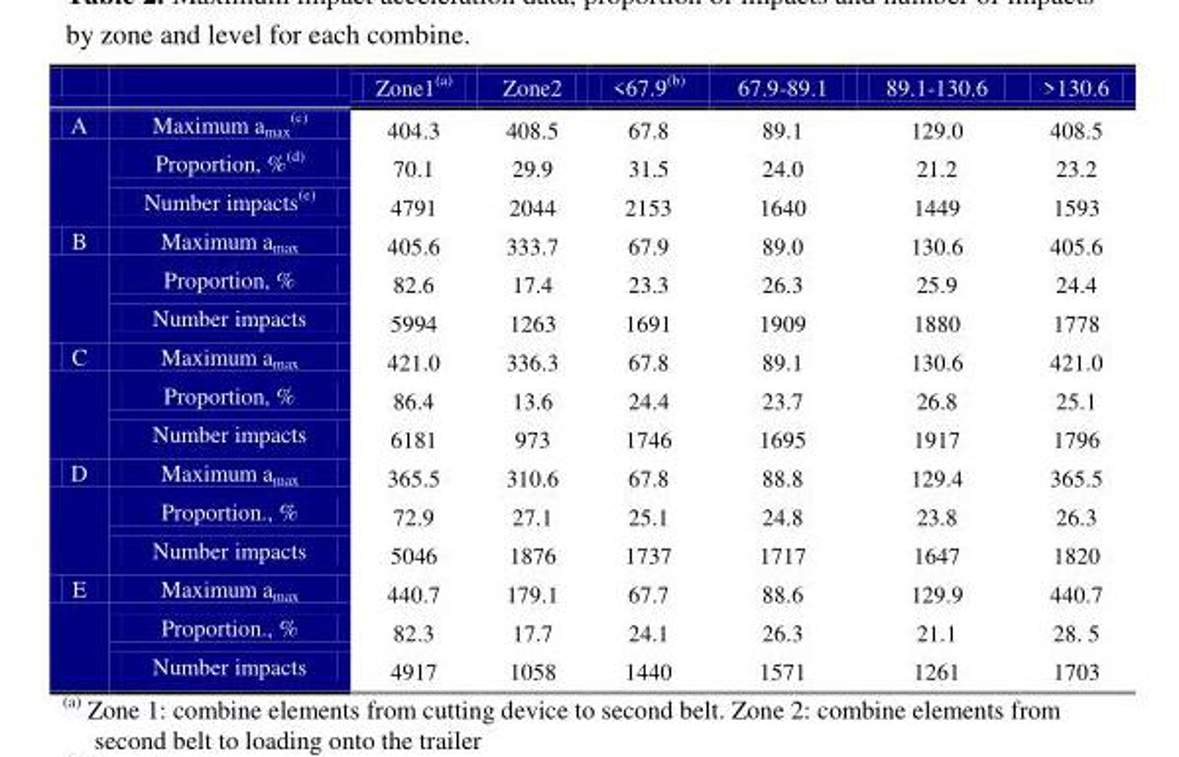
<table><thead><tr><td></td><td></td><td>Zone1(a)</td><td>Zone2</td><td>&lt;67.9(b)</td><td>67.9-89.1</td><td>89.1-130.6</td><td>&gt;130.6</td></tr></thead><tbody><tr><td rowspan="3">A</td><td>Maximum a<sub>max</sub> (c)</td><td>404.3</td><td>408.5</td><td>67.8</td><td>89.1</td><td>129.0</td><td>408.5</td></tr><tr><td>Proportion, %(d)</td><td>70.1</td><td>29.9</td><td>31.5</td><td>24.0</td><td>21.2</td><td>23.2</td></tr><tr><td>Number impacts(e)</td><td>4791</td><td>2044</td><td>2153</td><td>1640</td><td>1449</td><td>1593</td></tr><tr><td rowspan="3">B</td><td>Maximum a<sub>max</sub></td><td>405.6</td><td>333.7</td><td>67.9</td><td>89.0</td><td>130.6</td><td>405.6</td></tr><tr><td>Proportion, %</td><td>82.6</td><td>17.4</td><td>23.3</td><td>26.3</td><td>25.9</td><td>24.4</td></tr><tr><td>Number impacts</td><td>5994</td><td>1263</td><td>1691</td><td>1909</td><td>1880</td><td>1778</td></tr><tr><td rowspan="3">C</td><td>Maximum a<sub>max</sub></td><td>421.0</td><td>336.3</td><td>67.8</td><td>89.1</td><td>130.6</td><td>421.0</td></tr><tr><td>Proportion, %</td><td>86.4</td><td>13.6</td><td>24.4</td><td>23.7</td><td>26.8</td><td>25.1</td></tr><tr><td>Number impacts</td><td>6181</td><td>973</td><td>1746</td><td>1695</td><td>1917</td><td>1796</td></tr><tr><td rowspan="3">D</td><td>Maximum a<sub>max</sub></td><td>365.5</td><td>310.6</td><td>67.8</td><td>88.8</td><td>129.4</td><td>365.5</td></tr><tr><td>Proportion., %</td><td>72.9</td><td>27.1</td><td>25.1</td><td>24.8</td><td>23.8</td><td>26.3</td></tr><tr><td>Number impacts</td><td>5046</td><td>1876</td><td>1737</td><td>1717</td><td>1647</td><td>1820</td></tr><tr><td rowspan="3">E</td><td>Maximum a<sub>max</sub></td><td>440.7</td><td>179.1</td><td>67.7</td><td>88.6</td><td>129.9</td><td>440.7</td></tr><tr><td>Proportion., %</td><td>82.3</td><td>17.7</td><td>24.1</td><td>26.3</td><td>21.1</td><td>28. 5</td></tr><tr><td>Number impacts</td><td>4917</td><td>1058</td><td>1440</td><td>1571</td><td>1261</td><td>1703</td></tr></tbody></table>